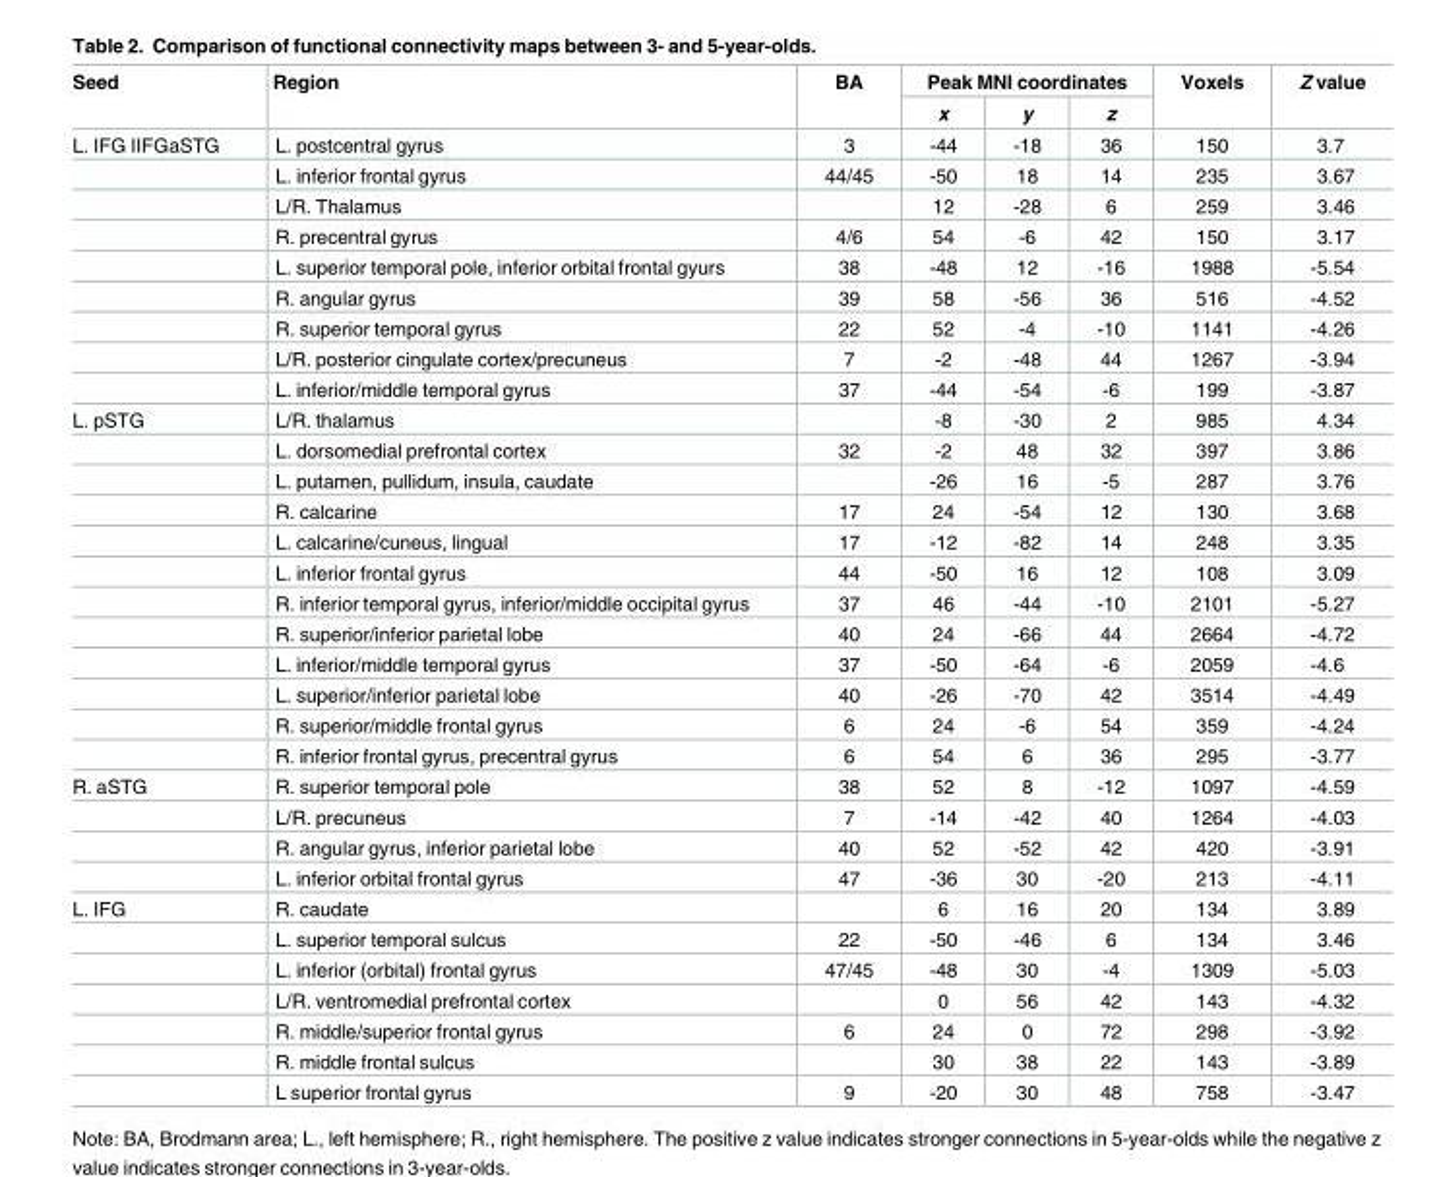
<table><thead><tr><td rowspan="2">Seed</td><td rowspan="2">Region</td><td rowspan="2">BA</td><td colspan="3">Peak MNI coordinates</td><td rowspan="2">Voxels</td><td rowspan="2">Z value</td></tr><tr><td>x</td><td>y</td><td>z</td></tr></thead><tbody><tr><td rowspan="9">L. IFG IIFGaSTG</td><td>L. postcentral gyrus</td><td>3</td><td>-44</td><td>-18</td><td>36</td><td>150</td><td>3.7</td></tr><tr><td>L. inferior frontal gyrus</td><td>44/45</td><td>-50</td><td>18</td><td>14</td><td>235</td><td>3.67</td></tr><tr><td>L/R. Thalamus</td><td></td><td>12</td><td>-28</td><td>6</td><td>259</td><td>3.46</td></tr><tr><td>R. precentral gyrus</td><td>4/6</td><td>54</td><td>-6</td><td>42</td><td>150</td><td>3.17</td></tr><tr><td>L. superior temporal pole, inferior orbital frontal gyurs</td><td>38</td><td>-48</td><td>12</td><td>-16</td><td>1988</td><td>-5.54</td></tr><tr><td>R. angular gyrus</td><td>39</td><td>58</td><td>-56</td><td>36</td><td>516</td><td>-4.52</td></tr><tr><td>R. superior temporal gyrus</td><td>22</td><td>52</td><td>-4</td><td>-10</td><td>1141</td><td>-4.26</td></tr><tr><td>L/R. posterior cingulate cortex/precuneus</td><td>7</td><td>-2</td><td>-48</td><td>44</td><td>1267</td><td>-3.94</td></tr><tr><td>L. inferior/middle temporal gyrus</td><td>37</td><td>-44</td><td>-54</td><td>-6</td><td>199</td><td>-3.87</td></tr><tr><td rowspan="12">L. pSTG</td><td>L/R. thalamus</td><td></td><td>-8</td><td>-30</td><td>2</td><td>985</td><td>4.34</td></tr><tr><td>L. dorsomedial prefrontal cortex</td><td>32</td><td>-2</td><td>48</td><td>32</td><td>397</td><td>3.86</td></tr><tr><td>L. putamen, pullidum, insula, caudate</td><td></td><td>-26</td><td>16</td><td>-5</td><td>287</td><td>3.76</td></tr><tr><td>R. calcarine</td><td>17</td><td>24</td><td>-54</td><td>12</td><td>130</td><td>3.68</td></tr><tr><td>L. calcarine/cuneus, lingual</td><td>17</td><td>-12</td><td>-82</td><td>14</td><td>248</td><td>3.35</td></tr><tr><td>L. inferior frontal gyrus</td><td>44</td><td>-50</td><td>16</td><td>12</td><td>108</td><td>3.09</td></tr><tr><td>R. inferior temporal gyrus, inferior/middle occipital gyrus</td><td>37</td><td>46</td><td>-44</td><td>-10</td><td>2101</td><td>-5.27</td></tr><tr><td>R. superior/inferior parietal lobe</td><td>40</td><td>24</td><td>-66</td><td>44</td><td>2664</td><td>-4.72</td></tr><tr><td>L. inferior/middle temporal gyrus</td><td>37</td><td>-50</td><td>-64</td><td>-6</td><td>2059</td><td>-4.6</td></tr><tr><td>L. superior/inferior parietal lobe</td><td>40</td><td>-26</td><td>-70</td><td>42</td><td>3514</td><td>-4.49</td></tr><tr><td>R. superior/middle frontal gyrus</td><td>6</td><td>24</td><td>-6</td><td>54</td><td>359</td><td>-4.24</td></tr><tr><td>R. inferior frontal gyrus, precentral gyrus</td><td>6</td><td>54</td><td>6</td><td>36</td><td>295</td><td>-3.77</td></tr><tr><td rowspan="4">R. aSTG</td><td>R. superior temporal pole</td><td>38</td><td>52</td><td>8</td><td>-12</td><td>1097</td><td>-4.59</td></tr><tr><td>L/R. precuneus</td><td>7</td><td>-14</td><td>-42</td><td>40</td><td>1264</td><td>-4.03</td></tr><tr><td>R. angular gyrus, inferior parietal lobe</td><td>40</td><td>52</td><td>-52</td><td>42</td><td>420</td><td>-3.91</td></tr><tr><td>L. inferior orbital frontal gyrus</td><td>47</td><td>-36</td><td>30</td><td>-20</td><td>213</td><td>-4.11</td></tr><tr><td rowspan="7">L. IFG</td><td>R. caudate</td><td></td><td>6</td><td>16</td><td>20</td><td>134</td><td>3.89</td></tr><tr><td>L. superior temporal sulcus</td><td>22</td><td>-50</td><td>-46</td><td>6</td><td>134</td><td>3.46</td></tr><tr><td>L. inferior (orbital) frontal gyrus</td><td>47/45</td><td>-48</td><td>30</td><td>-4</td><td>1309</td><td>-5.03</td></tr><tr><td>L/R. ventromedial prefrontal cortex</td><td></td><td>0</td><td>56</td><td>42</td><td>143</td><td>-4.32</td></tr><tr><td>R. middle/superior frontal gyrus</td><td>6</td><td>24</td><td>0</td><td>72</td><td>298</td><td>-3.92</td></tr><tr><td>R. middle frontal sulcus</td><td></td><td>30</td><td>38</td><td>22</td><td>143</td><td>-3.89</td></tr><tr><td>L superior frontal gyrus</td><td>9</td><td>-20</td><td>30</td><td>48</td><td>758</td><td>-3.47</td></tr></tbody></table>